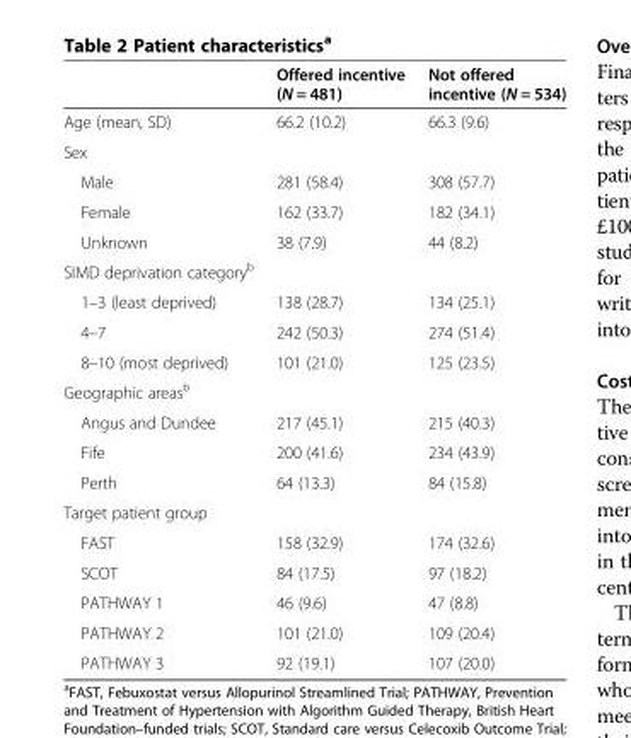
<table><thead><tr><td></td><td>Offered incentive (N = 481)</td><td>Not offered incentive (N = 534)</td></tr></thead><tbody><tr><td>Age (mean, SD)</td><td>66.2 (10.2)</td><td>66.3 (9.6)</td></tr><tr><td colspan="3">Sex</td></tr><tr><td>Male</td><td>281 (58.4)</td><td>308 (57.7)</td></tr><tr><td>Female</td><td>162 (33.7)</td><td>182 (34.1)</td></tr><tr><td>Unknown</td><td>38 (7.9)</td><td>44 (8.2)</td></tr><tr><td colspan="3">SIMD deprivation category<sup>b</sup></td></tr><tr><td>1–3 (least deprived)</td><td>138 (28.7)</td><td>134 (25.1)</td></tr><tr><td>4–7</td><td>242 (50.3)</td><td>274 (51.4)</td></tr><tr><td>8–10 (most deprived)</td><td>101 (21.0)</td><td>125 (23.5)</td></tr><tr><td colspan="3">Geographic areas<sup>b</sup></td></tr><tr><td>Angus and Dundee</td><td>217 (45.1)</td><td>215 (40.3)</td></tr><tr><td>Fife</td><td>200 (41.6)</td><td>234 (43.9)</td></tr><tr><td>Perth</td><td>64 (13.3)</td><td>84 (15.8)</td></tr><tr><td colspan="3">Target patient group</td></tr><tr><td>FAST</td><td>158 (32.9)</td><td>174 (32.6)</td></tr><tr><td>SCOT</td><td>84 (17.5)</td><td>97 (18.2)</td></tr><tr><td>PATHWAY 1</td><td>46 (9.6)</td><td>47 (8.8)</td></tr><tr><td>PATHWAY 2</td><td>101 (21.0)</td><td>109 (20.4)</td></tr><tr><td>PATHWAY 3</td><td>92 (19.1)</td><td>107 (20.0)</td></tr></tbody></table>